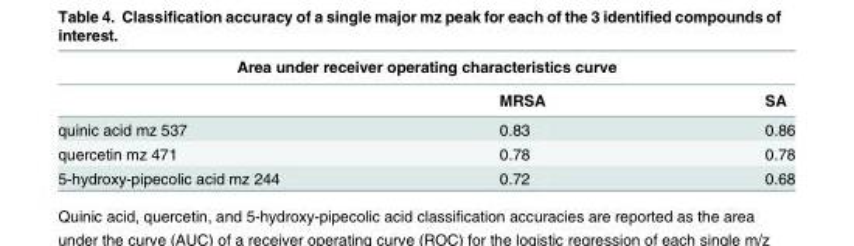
<table><thead><tr><td colspan="3">Area under receiver operating characteristics curve</td></tr><tr><td></td><td>MRSA</td><td>SA</td></tr></thead><tbody><tr><td>quinic acid mz 537</td><td>0.83</td><td>0.86</td></tr><tr><td>quercetin mz 471</td><td>0.78</td><td>0.78</td></tr><tr><td>5-hydroxy-pipecolic acid mz 244</td><td>0.72</td><td>0.68</td></tr></tbody></table>